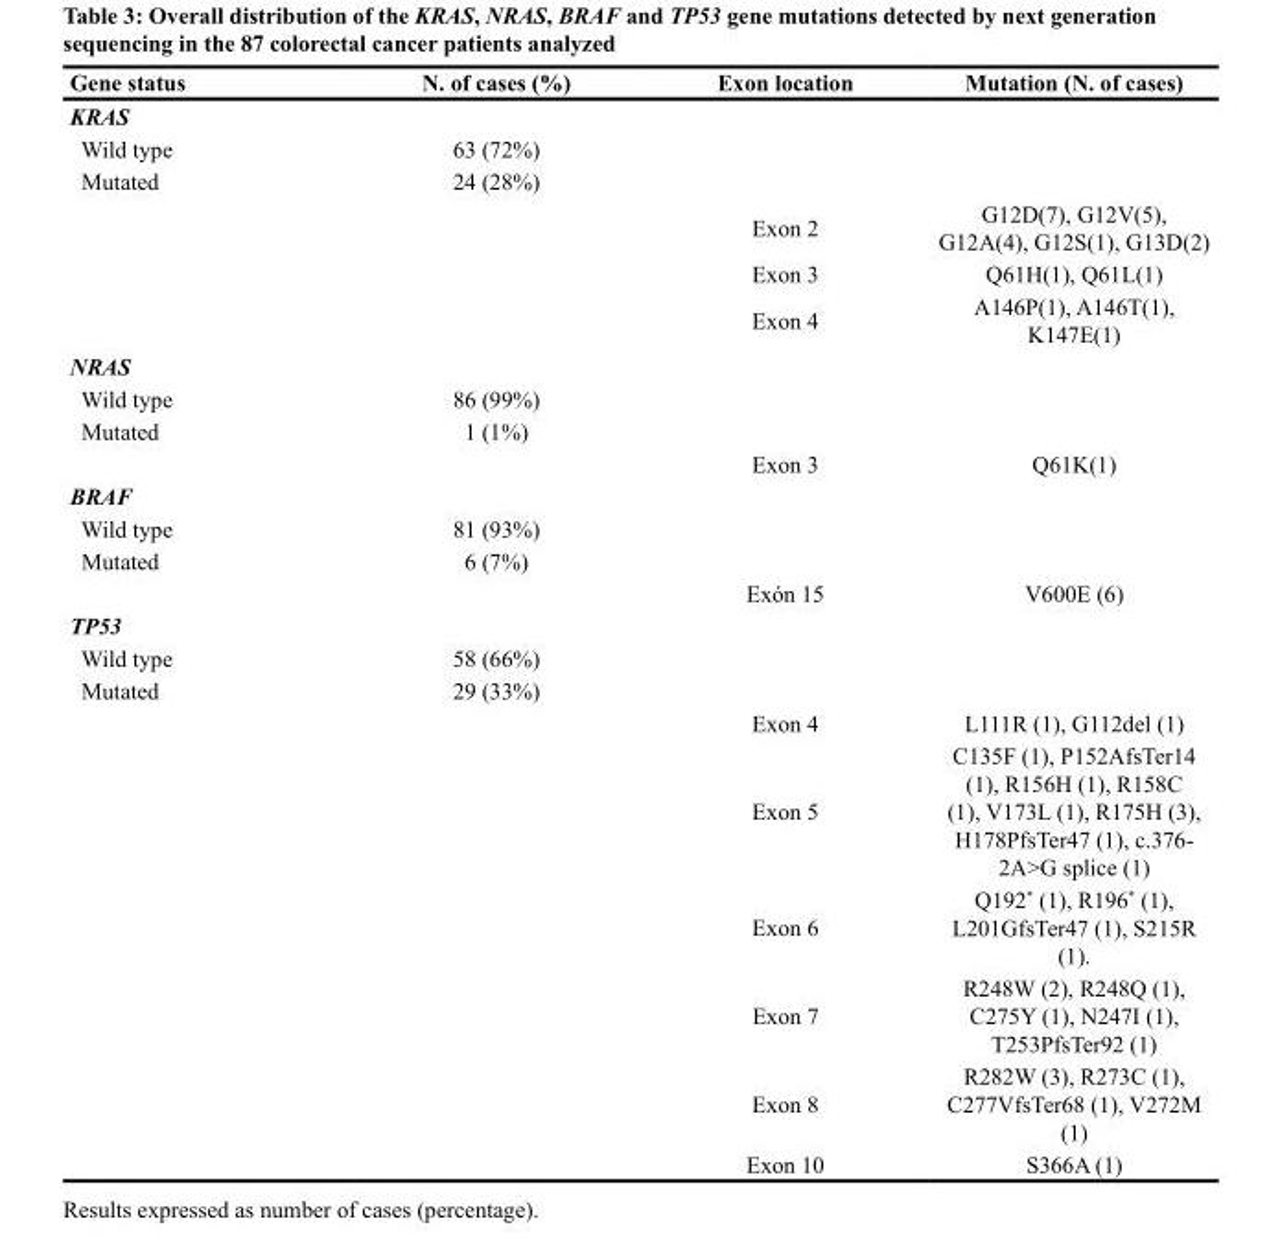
<table><thead><tr><td>Gene status</td><td>N. of cases (%)</td><td>Exon location</td><td>Mutation (N. of cases)</td></tr></thead><tbody><tr><td colspan="4">KRAS</td></tr><tr><td>Wild type</td><td>63 (72%)</td><td></td><td></td></tr><tr><td rowspan="4">Mutated</td><td>24 (28%)</td><td></td><td></td></tr><tr><td></td><td>Exon 2</td><td>G12D(7), G12V(5), G12A(4), G12S(1), G13D(2)</td></tr><tr><td></td><td>Exon 3</td><td>Q61H(1), Q61L(1)</td></tr><tr><td></td><td>Exon 4</td><td>A146P(1), A146T(1), K147E(1)</td></tr><tr><td colspan="4">NRAS</td></tr><tr><td>Wild type</td><td>86 (99%)</td><td></td><td></td></tr><tr><td rowspan="2">Mutated</td><td>1 (1%)</td><td></td><td></td></tr><tr><td></td><td>Exon 3</td><td>Q61K(1)</td></tr><tr><td colspan="4">BRAF</td></tr><tr><td>Wild type</td><td>81 (93%)</td><td></td><td></td></tr><tr><td rowspan="2">Mutated</td><td>6 (7%)</td><td></td><td></td></tr><tr><td></td><td>Exón 15</td><td>V600E (6)</td></tr><tr><td colspan="4">TP53</td></tr><tr><td>Wild type</td><td>58 (66%)</td><td></td><td></td></tr><tr><td rowspan="7">Mutated</td><td>29 (33%)</td><td></td><td></td></tr><tr><td></td><td>Exon 4</td><td>L111R (1), G112del (1)</td></tr><tr><td></td><td>Exon 5</td><td>C135F (1), P152AfsTer14 (1), R156H (1), R158C (1), V173L (1), R175H (3), H178PfsTer47 (1), c.376- 2A&gt;G splice (1)</td></tr><tr><td></td><td>Exon 6</td><td>Q192* (1), R196* (1), L201GfsTer47 (1), S215R (1).</td></tr><tr><td></td><td>Exon 7</td><td>R248W (2), R248Q (1), C275Y (1), N247I (1), T253PfsTer92 (1)</td></tr><tr><td></td><td>Exon 8</td><td>R282W (3), R273C (1), C277VfsTer68 (1), V272M (1)</td></tr><tr><td></td><td>Exon 10</td><td>S366A (1)</td></tr></tbody></table>